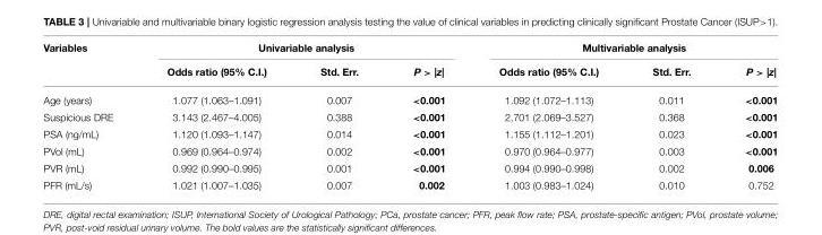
<table><thead><tr><td rowspan="2">Variables</td><td colspan="3">Univariable analysis</td><td colspan="3">Multivariable analysis</td></tr><tr><td>Odds ratio (95% C.I.)</td><td>Std. Err.</td><td>P &gt; |z|</td><td>Odds ratio (95% C.I.)</td><td>Std. Err.</td><td>P &gt; |z|</td></tr></thead><tbody><tr><td>Age (years)</td><td>1.077 (1.063–1.091)</td><td>0.007</td><td>&lt;0.001</td><td>1.092 (1.072–1.113)</td><td>0.011</td><td>&lt;0.001</td></tr><tr><td>Suspicious DRE</td><td>3.143 (2.467–4.005)</td><td>0.388</td><td>&lt;0.001</td><td>2.701 (2.069–3.527)</td><td>0.368</td><td>&lt;0.001</td></tr><tr><td>PSA (ng/mL)</td><td>1.120 (1.093–1.147)</td><td>0.014</td><td>&lt;0.001</td><td>1.155 (1.112–1.201)</td><td>0.023</td><td>&lt;0.001</td></tr><tr><td>PVol (mL)</td><td>0.969 (0.964–0.974)</td><td>0.002</td><td>&lt;0.001</td><td>0.970 (0.964–0.977)</td><td>0.003</td><td>&lt;0.001</td></tr><tr><td>PVR (mL)</td><td>0.992 (0.990–0.995)</td><td>0.001</td><td>&lt;0.001</td><td>0.994 (0.990–0.998)</td><td>0.002</td><td>0.006</td></tr><tr><td>PFR (mL/s)</td><td>1.021 (1.007–1.035)</td><td>0.007</td><td>0.002</td><td>1.003 (0.983–1.024)</td><td>0.010</td><td>0.752</td></tr></tbody></table>